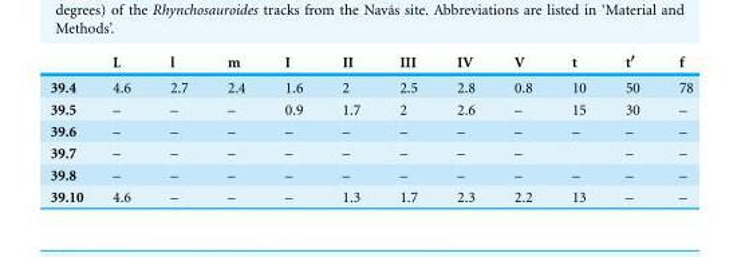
<table><thead><tr><td></td><td>L</td><td>l</td><td>m</td><td>I</td><td>II</td><td>III</td><td>IV</td><td>V</td><td>t</td><td>t′</td><td>f</td></tr></thead><tbody><tr><td>39.4</td><td>4.6</td><td>2.7</td><td>2.4</td><td>1.6</td><td>2</td><td>2.5</td><td>2.8</td><td>0.8</td><td>10</td><td>50</td><td>78</td></tr><tr><td>39.5</td><td>–</td><td>–</td><td>–</td><td>0.9</td><td>1.7</td><td>2</td><td>2.6</td><td>–</td><td>15</td><td>30</td><td>–</td></tr><tr><td>39.6</td><td>–</td><td>–</td><td>–</td><td>–</td><td>–</td><td>–</td><td>–</td><td>–</td><td>–</td><td>–</td><td>–</td></tr><tr><td>39.7</td><td>–</td><td>–</td><td>–</td><td>–</td><td>–</td><td>–</td><td>–</td><td>–</td><td></td><td>–</td><td>–</td></tr><tr><td>39.8</td><td>–</td><td>–</td><td>–</td><td>–</td><td>–</td><td>–</td><td>–</td><td>–</td><td>–</td><td>–</td><td>–</td></tr><tr><td>39.10</td><td>4.6</td><td>–</td><td>–</td><td>–</td><td>1.3</td><td>1.7</td><td>2.3</td><td>2.2</td><td>13</td><td>–</td><td>–</td></tr></tbody></table>